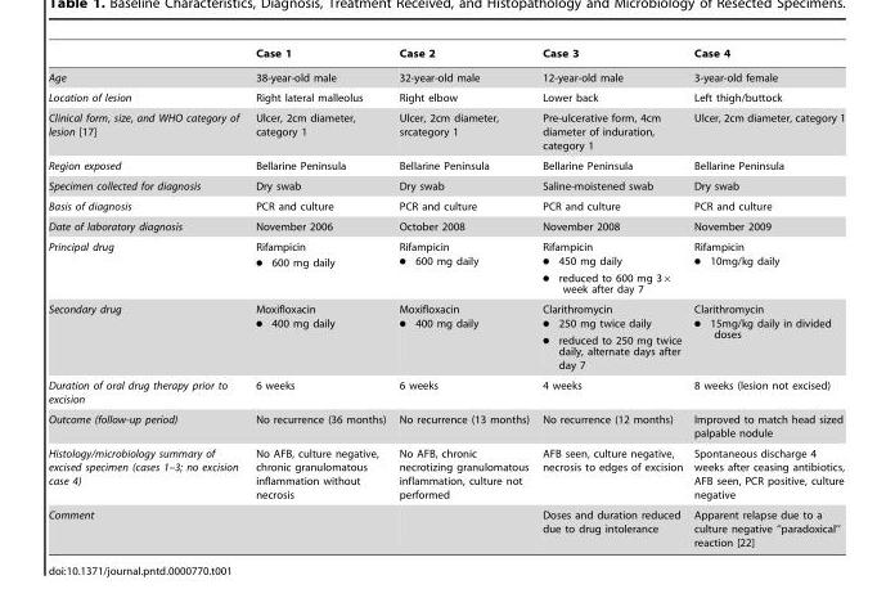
<table><thead><tr><td></td><td>Case 1</td><td>Case 2</td><td>Case 3</td><td>Case 4</td></tr></thead><tbody><tr><td>Age</td><td>38-year-old male</td><td>32-year-old male</td><td>12-year-old male</td><td>3-year-old female</td></tr><tr><td>Location of lesion</td><td>Right lateral malleolus</td><td>Right elbow</td><td>Lower back</td><td>Left thigh/buttock</td></tr><tr><td>Clinical form, size, and WHO category of lesion [17]</td><td>Ulcer, 2cm diameter, category 1</td><td>Ulcer, 2cm diameter, srcategory 1</td><td>Pre-ulcerative form, 4cm diameter of induration, category 1</td><td>Ulcer, 2cm diameter, category 1</td></tr><tr><td>Region exposed</td><td>Bellarine Peninsula</td><td>Bellarine Peninsula</td><td>Bellarine Peninsula</td><td>Bellarine Peninsula</td></tr><tr><td>Specimen collected for diagnosis</td><td>Dry swab</td><td>Dry swab</td><td>Saline-moistened swab</td><td>Dry swab</td></tr><tr><td>Basis of diagnosis</td><td>PCR and culture</td><td>PCR and culture</td><td>PCR and culture</td><td>PCR and culture</td></tr><tr><td>Date of laboratory diagnosis</td><td>November 2006</td><td>October 2008</td><td>November 2008</td><td>November 2009</td></tr><tr><td>Principal drug</td><td>Rifampicin N 600 mg daily</td><td>Rifampicin N 600 mg daily</td><td>Rifampicin N 450 mg daily N reduced to 600 mg 36 week after day 7</td><td>Rifampicin N 10mg/kg daily</td></tr><tr><td>Secondary drug</td><td>Moxifloxacin N 400 mg daily</td><td>Moxifloxacin N 400 mg daily</td><td>Clarithromycin N 250 mg twice daily N reduced to 250 mg twice daily, alternate days after day 7</td><td>Clarithromycin N 15mg/kg daily in divided doses</td></tr><tr><td>Duration of oral drug therapy prior to excision</td><td>6 weeks</td><td>6 weeks</td><td>4 weeks</td><td>8 weeks (lesion not excised)</td></tr><tr><td>Outcome (follow-up period)</td><td>No recurrence (36 months)</td><td>No recurrence (13 months)</td><td>No recurrence (12 months)</td><td>Improved to match head sized palpable nodule</td></tr><tr><td>Histology/microbiology summary of excised specimen (cases 1–3; no excision case 4)</td><td>No AFB, culture negative, chronic granulomatous inflammation without necrosis</td><td>No AFB, chronic necrotizing granulomatous inflammation, culture not performed</td><td>AFB seen, culture negative, necrosis to edges of excision</td><td>Spontaneous discharge 4 weeks after ceasing antibiotics, AFB seen, PCR positive, culture negative</td></tr><tr><td>Comment</td><td></td><td></td><td>Doses and duration reduced due to drug intolerance</td><td>Apparent relapse due to a culture negative ‘‘paradoxical’’ reaction [22]</td></tr></tbody></table>